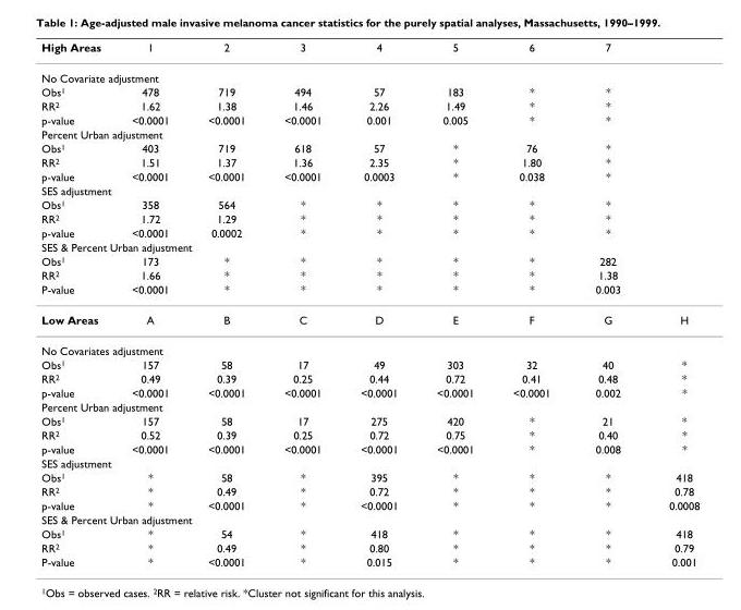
<table><thead><tr><td>High Areas</td><td>1</td><td>2</td><td>3</td><td>4</td><td>5</td><td>6</td><td>7</td><td></td></tr></thead><tbody><tr><td colspan="9">No Covariate adjustment</td></tr><tr><td>Obs<sup>1</sup></td><td>478</td><td>719</td><td>494</td><td>57</td><td>183</td><td>*</td><td>*</td><td></td></tr><tr><td>RR<sup>2</sup></td><td>1.62</td><td>1.38</td><td>1.46</td><td>2.26</td><td>1.49</td><td>*</td><td>*</td><td></td></tr><tr><td>p-value</td><td>&lt;0.0001</td><td>&lt;0.0001</td><td>&lt;0.0001</td><td>0.001</td><td>0.005</td><td>*</td><td>*</td><td></td></tr><tr><td colspan="9">Percent Urban adjustment</td></tr><tr><td>Obs<sup>1</sup></td><td>403</td><td>719</td><td>618</td><td>57</td><td>*</td><td>76</td><td>*</td><td></td></tr><tr><td>RR<sup>2</sup></td><td>1.51</td><td>1.37</td><td>1.36</td><td>2.35</td><td>*</td><td>1.80</td><td>*</td><td></td></tr><tr><td>p-value</td><td>&lt;0.0001</td><td>&lt;0.0001</td><td>&lt;0.0001</td><td>0.0003</td><td>*</td><td>0.038</td><td>*</td><td></td></tr><tr><td colspan="9">SES adjustment</td></tr><tr><td>Obs<sup>1</sup></td><td>358</td><td>564</td><td>*</td><td>*</td><td>*</td><td>*</td><td>*</td><td></td></tr><tr><td>RR<sup>2</sup></td><td>1.72</td><td>1.29</td><td>*</td><td>*</td><td>*</td><td>*</td><td>*</td><td></td></tr><tr><td>p-value</td><td>&lt;0.0001</td><td>0.0002</td><td>*</td><td>*</td><td>*</td><td>*</td><td>*</td><td></td></tr><tr><td colspan="9">SES &amp; Percent Urban adjustment</td></tr><tr><td>Obs<sup>1</sup></td><td>173</td><td>*</td><td>*</td><td>*</td><td>*</td><td>*</td><td>282</td><td></td></tr><tr><td>RR<sup>2</sup></td><td>1.66</td><td>*</td><td>*</td><td>*</td><td>*</td><td>*</td><td>1.38</td><td></td></tr><tr><td>P-value</td><td>&lt;0.0001</td><td>*</td><td>*</td><td>*</td><td>*</td><td>*</td><td>0.003</td><td></td></tr><tr><td>Low Areas</td><td>A</td><td>B</td><td>C</td><td>D</td><td>E</td><td>F</td><td>G</td><td>H</td></tr><tr><td colspan="9">No Covariates adjustment</td></tr><tr><td>Obs<sup>1</sup></td><td>157</td><td>58</td><td>17</td><td>49</td><td>303</td><td>32</td><td>40</td><td>*</td></tr><tr><td>RR<sup>2</sup></td><td>0.49</td><td>0.39</td><td>0.25</td><td>0.44</td><td>0.72</td><td>0.41</td><td>0.48</td><td>*</td></tr><tr><td>p-value</td><td>&lt;0.0001</td><td>&lt;0.0001</td><td>&lt;0.0001</td><td>&lt;0.0001</td><td>&lt;0.0001</td><td>&lt;0.0001</td><td>0.002</td><td>*</td></tr><tr><td colspan="9">Percent Urban adjustment</td></tr><tr><td>Obs<sup>1</sup></td><td>157</td><td>58</td><td>17</td><td>275</td><td>420</td><td>*</td><td>21</td><td>*</td></tr><tr><td>RR<sup>2</sup></td><td>0.52</td><td>0.39</td><td>0.25</td><td>0.72</td><td>0.75</td><td>*</td><td>0.40</td><td>*</td></tr><tr><td>p-value</td><td>&lt;0.0001</td><td>&lt;0.0001</td><td>&lt;0.0001</td><td>&lt;0.0001</td><td>&lt;0.0001</td><td>*</td><td>0.008</td><td>*</td></tr><tr><td colspan="9">SES adjustment</td></tr><tr><td>Obs<sup>1</sup></td><td>*</td><td>58</td><td>*</td><td>395</td><td>*</td><td>*</td><td>*</td><td>418</td></tr><tr><td>RR<sup>2</sup></td><td>*</td><td>0.49</td><td>*</td><td>0.72</td><td>*</td><td>*</td><td>*</td><td>0.78</td></tr><tr><td>p-value</td><td>*</td><td>&lt;0.0001</td><td>*</td><td>&lt;0.0001</td><td>*</td><td>*</td><td>*</td><td>0.0008</td></tr><tr><td colspan="9">SES &amp; Percent Urban adjustment</td></tr><tr><td>Obs<sup>1</sup></td><td>*</td><td>54</td><td>*</td><td>418</td><td>*</td><td>*</td><td>*</td><td>418</td></tr><tr><td>RR<sup>2</sup></td><td>*</td><td>0.49</td><td>*</td><td>0.80</td><td>*</td><td>*</td><td>*</td><td>0.79</td></tr><tr><td>P-value</td><td>*</td><td>&lt;0.0001</td><td>*</td><td>0.015</td><td>*</td><td>*</td><td>*</td><td>0.001</td></tr></tbody></table>